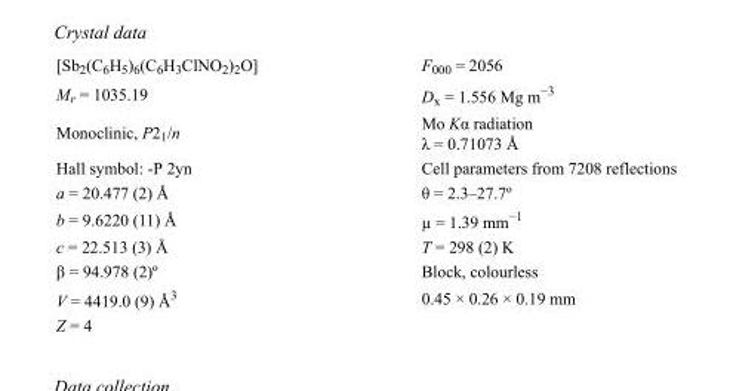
<table><tbody><tr><td>[Sb<sub>2</sub>(C<sub>6</sub>H<sub>5</sub>)<sub>6</sub>(C<sub>6</sub>H<sub>3</sub>ClNO<sub>2</sub>)<sub>2</sub>O]</td><td>F000 = 2056</td></tr><tr><td>M<sub>r</sub> = 1035.19</td><td>D<sub>x</sub> = 1.556 Mg m<sup>−3</sup></td></tr><tr><td>Monoclinic, P2<sub>1</sub>/n</td><td>Mo Kα radiation λ = 0.71073 Å</td></tr><tr><td>Hall symbol: -P 2yn</td><td>Cell parameters from 7208 reflections</td></tr><tr><td>a = 20.477 (2) Å</td><td>θ = 2.3–27.7º</td></tr><tr><td>b = 9.6220 (11) Å</td><td>µ = 1.39 mm<sup>−1</sup></td></tr><tr><td>c = 22.513 (3) Å</td><td>T = 298 (2) K</td></tr><tr><td>β = 94.978 (2)º</td><td>Block, colourless</td></tr><tr><td>V = 4419.0 (9) Å<sup>3</sup></td><td>0.45 × 0.26 × 0.19 mm</td></tr><tr><td>Z = 4</td><td></td></tr></tbody></table>